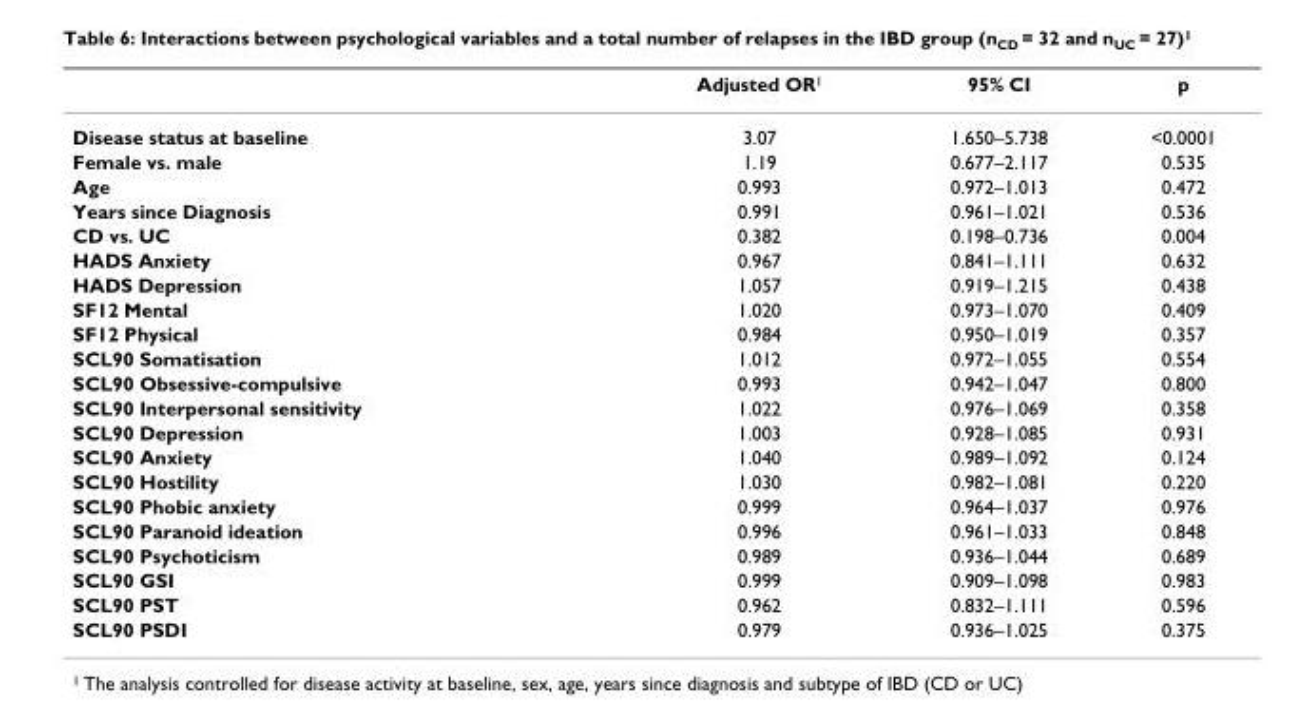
<table><thead><tr><td></td><td>Adjusted OR<sup>1</sup></td><td>95% CI</td><td>p</td></tr></thead><tbody><tr><td>Disease status at baseline</td><td>3.07</td><td>1.650–5.738</td><td>&lt;0.0001</td></tr><tr><td>Female vs. male</td><td>1.19</td><td>0.677–2.117</td><td>0.535</td></tr><tr><td>Age</td><td>0.993</td><td>0.972–1.013</td><td>0.472</td></tr><tr><td>Years since Diagnosis</td><td>0.991</td><td>0.961–1.021</td><td>0.536</td></tr><tr><td>CD vs. UC</td><td>0.382</td><td>0.198–0.736</td><td>0.004</td></tr><tr><td>HADS Anxiety</td><td>0.967</td><td>0.841–1.111</td><td>0.632</td></tr><tr><td>HADS Depression</td><td>1.057</td><td>0.919–1.215</td><td>0.438</td></tr><tr><td>SF12 Mental</td><td>1.020</td><td>0.973–1.070</td><td>0.409</td></tr><tr><td>SF12 Physical</td><td>0.984</td><td>0.950–1.019</td><td>0.357</td></tr><tr><td>SCL90 Somatisation</td><td>1.012</td><td>0.972–1.055</td><td>0.554</td></tr><tr><td>SCL90 Obsessive-compulsive</td><td>0.993</td><td>0.942–1.047</td><td>0.800</td></tr><tr><td>SCL90 Interpersonal sensitivity</td><td>1.022</td><td>0.976–1.069</td><td>0.358</td></tr><tr><td>SCL90 Depression</td><td>1.003</td><td>0.928–1.085</td><td>0.931</td></tr><tr><td>SCL90 Anxiety</td><td>1.040</td><td>0.989–1.092</td><td>0.124</td></tr><tr><td>SCL90 Hostility</td><td>1.030</td><td>0.982–1.081</td><td>0.220</td></tr><tr><td>SCL90 Phobic anxiety</td><td>0.999</td><td>0.964–1.037</td><td>0.976</td></tr><tr><td>SCL90 Paranoid ideation</td><td>0.996</td><td>0.961–1.033</td><td>0.848</td></tr><tr><td>SCL90 Psychoticism</td><td>0.989</td><td>0.936–1.044</td><td>0.689</td></tr><tr><td>SCL90 GSI</td><td>0.999</td><td>0.909–1.098</td><td>0.983</td></tr><tr><td>SCL90 PST</td><td>0.962</td><td>0.832–1.111</td><td>0.596</td></tr><tr><td>SCL90 PSDI</td><td>0.979</td><td>0.936–1.025</td><td>0.375</td></tr></tbody></table>